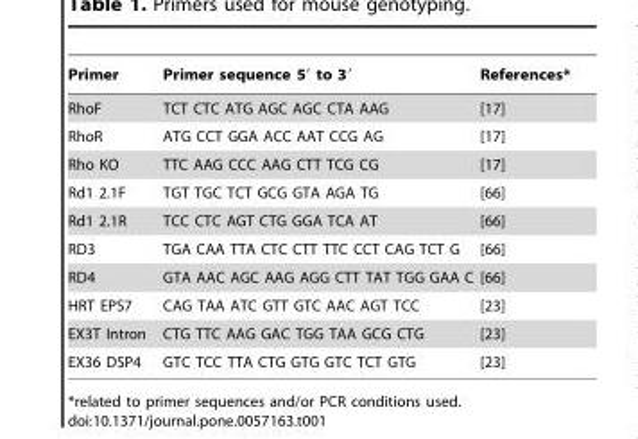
<table><thead><tr><td>Primer</td><td>Primer sequence 5′ to 3′</td><td>References*</td></tr></thead><tbody><tr><td>RhoF</td><td>TCT CTC ATG AGC AGC CTA AAG</td><td>[17]</td></tr><tr><td>RhoR</td><td>ATG CCT GGA ACC AAT CCG AG</td><td>[17]</td></tr><tr><td>Rho KO</td><td>TTC AAG CCC AAG CTT TCG CG</td><td>[17]</td></tr><tr><td>Rd1 2.1F</td><td>TGT TGC TCT GCG GTA AGA TG</td><td>[66]</td></tr><tr><td>Rd1 2.1R</td><td>TCC CTC AGT CTG GGA TCA AT</td><td>[66]</td></tr><tr><td>RD3</td><td>TGA CAA TTA CTC CTT TTC CCT CAG TCT G</td><td>[66]</td></tr><tr><td>RD4</td><td>GTA AAC AGC AAG AGG CTT TAT TGG GAA C</td><td>[66]</td></tr><tr><td>HRT EPS7</td><td>CAG TAA ATC GTT GTC AAC AGT TCC</td><td>[23]</td></tr><tr><td>EX3T Intron</td><td>CTG TTC AAG GAC TGG TAA GCG CTG</td><td>[23]</td></tr><tr><td>EX36 DSP4</td><td>GTC TCC TTA CTG GTG GTC TCT GTG</td><td>[23]</td></tr></tbody></table>